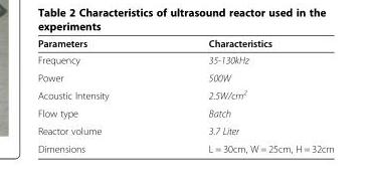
<table><thead><tr><td>Parameters</td><td>Characteristics</td></tr></thead><tbody><tr><td>Frequency</td><td>35-130kHz</td></tr><tr><td>Power</td><td>500W</td></tr><tr><td>Acoustic Intensity</td><td>2.5W/cm<sup>2</sup></td></tr><tr><td>Flow type</td><td>Batch</td></tr><tr><td>Reactor volume</td><td>3.7 Liter</td></tr><tr><td>Dimensions</td><td>L = 30cm, W = 25cm, H = 32cm</td></tr></tbody></table>